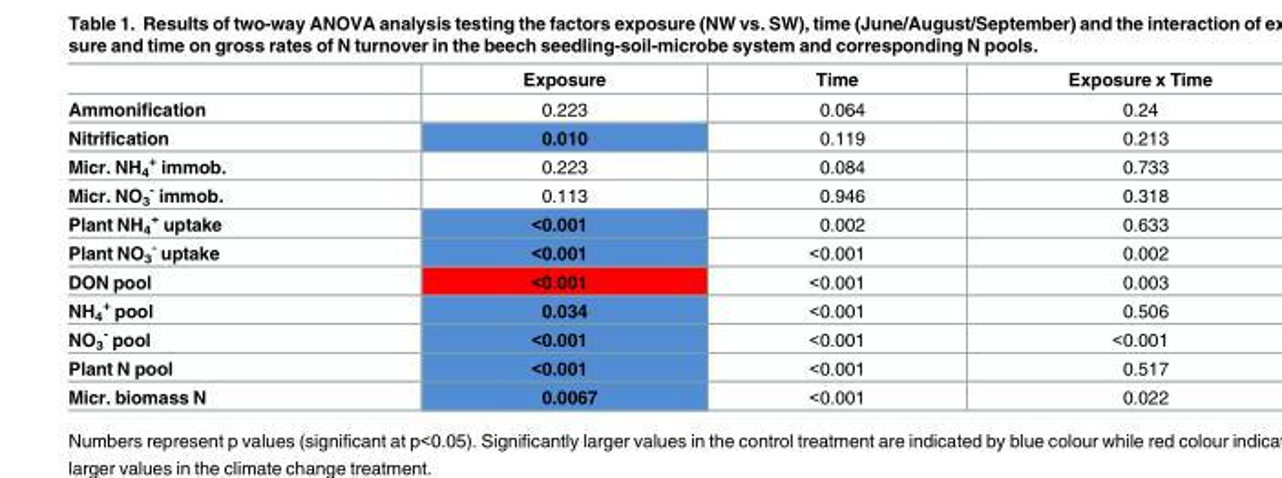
<table><thead><tr><td></td><td>Exposure</td><td>Time</td><td>Exposure x Time</td></tr></thead><tbody><tr><td>Ammonification</td><td>0.223</td><td>0.064</td><td>0.24</td></tr><tr><td>Nitrification</td><td>0.010</td><td>0.119</td><td>0.213</td></tr><tr><td>Micr. NH<sub>4</sub> <sup>+</sup> immob.</td><td>0.223</td><td>0.084</td><td>0.733</td></tr><tr><td>Micr. NO<sub>3</sub> <sup>-</sup> immob.</td><td>0.113</td><td>0.946</td><td>0.318</td></tr><tr><td>Plant NH<sub>4</sub> <sup>+</sup> uptake</td><td>&lt;0.001</td><td>0.002</td><td>0.633</td></tr><tr><td>Plant NO<sub>3</sub> <sup>-</sup> uptake</td><td>&lt;0.001</td><td>&lt;0.001</td><td>0.002</td></tr><tr><td>DON pool</td><td>&lt;0.001</td><td>&lt;0.001</td><td>0.003</td></tr><tr><td>NH<sub>4</sub> <sup>+</sup> pool</td><td>0.034</td><td>&lt;0.001</td><td>0.506</td></tr><tr><td>NO<sub>3</sub> <sup>-</sup> pool</td><td>&lt;0.001</td><td>&lt;0.001</td><td>&lt;0.001</td></tr><tr><td>Plant N pool</td><td>&lt;0.001</td><td>&lt;0.001</td><td>0.517</td></tr><tr><td>Micr. biomass N</td><td>0.0067</td><td>&lt;0.001</td><td>0.022</td></tr></tbody></table>